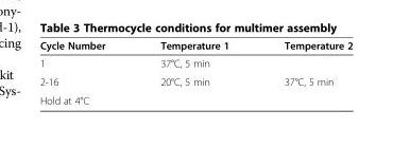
<table><thead><tr><td>Cycle Number</td><td>Temperature 1</td><td>Temperature 2</td></tr></thead><tbody><tr><td>1</td><td>37°C, 5 min</td><td></td></tr><tr><td>2-16</td><td>20°C, 5 min</td><td>37°C, 5 min</td></tr><tr><td>Hold at 4°C</td><td></td><td></td></tr></tbody></table>